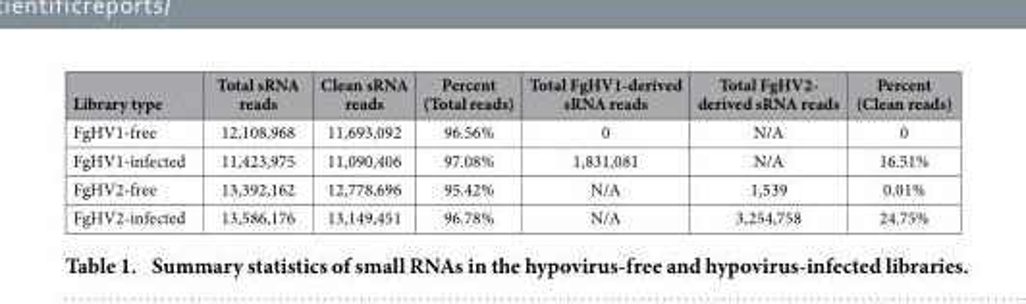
<table><thead><tr><td>Library type</td><td>Total sRNA reads</td><td>Clean sRNA reads</td><td>Percent (Total reads)</td><td>Total FgHV1-derived sRNA reads</td><td>Total FgHV2- derived sRNA reads</td><td>Percent (Clean reads)</td></tr></thead><tbody><tr><td>FgHV1-free</td><td>12,108,968</td><td>11,693,092</td><td>96.56%</td><td>0</td><td>N/A</td><td>0</td></tr><tr><td>FgHV1-infected</td><td>11,423,975</td><td>11,090,406</td><td>97.08%</td><td>1,831,081</td><td>N/A</td><td>16.51%</td></tr><tr><td>FgHV2-free</td><td>13,392,162</td><td>12,778,696</td><td>95.42%</td><td>N/A</td><td>1,539</td><td>0.01%</td></tr><tr><td>FgHV2-infected</td><td>13,586,176</td><td>13,149,451</td><td>96.78%</td><td>N/A</td><td>3,254,758</td><td>24.75%</td></tr></tbody></table>